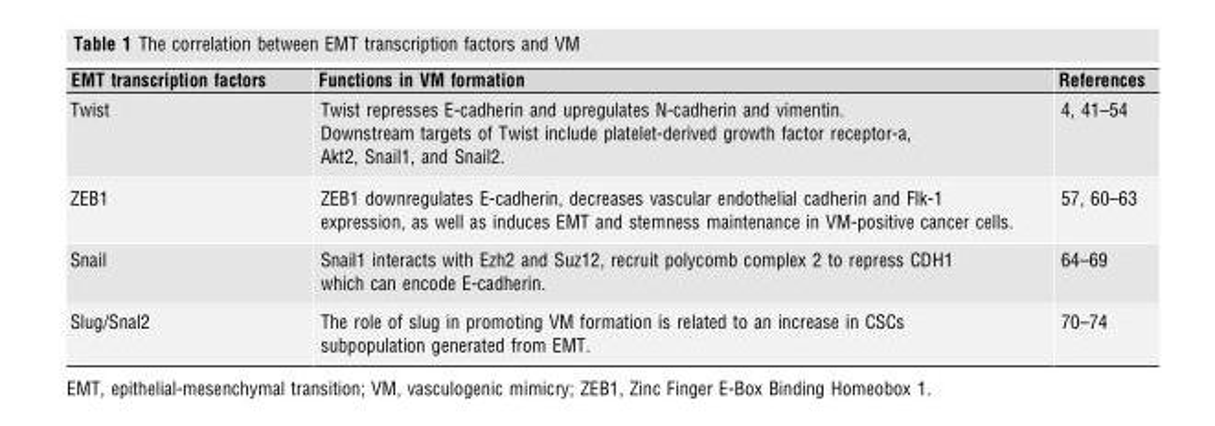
<table><thead><tr><td>EMT transcription factors</td><td>Functions in VM formation</td><td>References</td></tr></thead><tbody><tr><td>Twist</td><td>Twist represses E-cadherin and upregulates N-cadherin and vimentin. Downstream targets of Twist include platelet-derived growth factor receptor-a, Akt2, Snail1, and Snail2.</td><td>4, 41–54</td></tr><tr><td>ZEB1</td><td>ZEB1 downregulates E-cadherin, decreases vascular endothelial cadherin and Flk-1 expression, as well as induces EMT and stemness maintenance in VM-positive cancer cells.</td><td>57, 60–63</td></tr><tr><td>Snail</td><td>Snail1 interacts with Ezh2 and Suz12, recruit polycomb complex 2 to repress CDH1 which can encode E-cadherin.</td><td>64–69</td></tr><tr><td>Slug/Snal2</td><td>The role of slug in promoting VM formation is related to an increase in CSCs subpopulation generated from EMT.</td><td>70–74</td></tr></tbody></table>